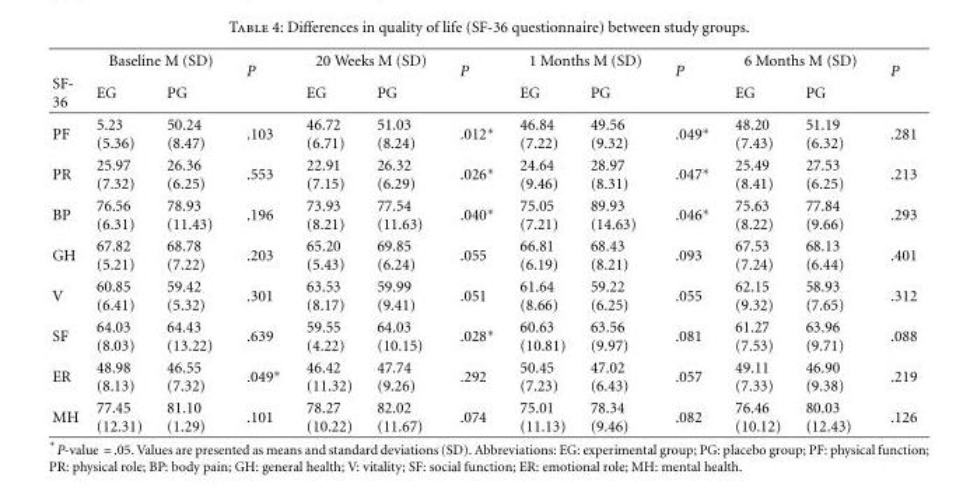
<table><thead><tr><td rowspan="2">SF- 36</td><td colspan="2">Baseline M (SD)</td><td rowspan="2">P</td><td colspan="2">20 Weeks M (SD)</td><td rowspan="2">P</td><td colspan="2">1 Months M (SD)</td><td rowspan="2">P</td><td colspan="2">6 Months M (SD)</td><td rowspan="2">P</td></tr><tr><td>EG</td><td>PG</td><td>EG</td><td>PG</td><td>EG</td><td>PG</td><td>EG</td><td>PG</td></tr></thead><tbody><tr><td>PF</td><td>5.23 (5.36)</td><td>50.24 (8.47)</td><td>.103</td><td>46.72 (6.71)</td><td>51.03 (8.24)</td><td>.012∗</td><td>46.84 (7.22)</td><td>49.56 (9.32)</td><td>.049∗</td><td>48.20 (7.43)</td><td>51.19 (6.32)</td><td>.281</td></tr><tr><td>PR</td><td>25.97 (7.32)</td><td>26.36 (6.25)</td><td>.553</td><td>22.91 (7.15)</td><td>26.32 (6.29)</td><td>.026∗</td><td>24.64 (9.46)</td><td>28.97 (8.31)</td><td>.047∗</td><td>25.49 (8.41)</td><td>27.53 (6.25)</td><td>.213</td></tr><tr><td>BP</td><td>76.56 (6.31)</td><td>78.93 (11.43)</td><td>.196</td><td>73.93 (8.21)</td><td>77.54 (11.63)</td><td>.040∗</td><td>75.05 (7.21)</td><td>89.93 (14.63)</td><td>.046∗</td><td>75.63 (8.22)</td><td>77.84 (9.66)</td><td>.293</td></tr><tr><td>GH</td><td>67.82 (5.21)</td><td>68.78 (7.22)</td><td>.203</td><td>65.20 (5.43)</td><td>69.85 (6.24)</td><td>.055</td><td>66.81 (6.19)</td><td>68.43 (8.21)</td><td>.093</td><td>67.53 (7.24)</td><td>68.13 (6.44)</td><td>.401</td></tr><tr><td>V</td><td>60.85 (6.41)</td><td>59.42 (5.32)</td><td>.301</td><td>63.53 (8.17)</td><td>59.99 (9.41)</td><td>.051</td><td>61.64 (8.66)</td><td>59.22 (6.25)</td><td>.055</td><td>62.15 (9.32)</td><td>58.93 (7.65)</td><td>.312</td></tr><tr><td>SF</td><td>64.03 (8.03)</td><td>64.43 (13.22)</td><td>.639</td><td>59.55 (4.22)</td><td>64.03 (10.15)</td><td>.028∗</td><td>60.63 (10.81)</td><td>63.56 (9.97)</td><td>.081</td><td>61.27 (7.53)</td><td>63.96 (9.71)</td><td>.088</td></tr><tr><td>ER</td><td>48.98 (8.13)</td><td>46.55 (7.32)</td><td>.049∗</td><td>46.42 (11.32)</td><td>47.74 (9.26)</td><td>.292</td><td>50.45 (7.23)</td><td>47.02 (6.43)</td><td>.057</td><td>49.11 (7.33)</td><td>46.90 (9.38)</td><td>.219</td></tr><tr><td>MH</td><td>77.45 (12.31)</td><td>81.10 (1.29)</td><td>.101</td><td>78.27 (10.22)</td><td>82.02 (11.67)</td><td>.074</td><td>75.01 (11.13)</td><td>78.34 (9.46)</td><td>.082</td><td>76.46 (10.12)</td><td>80.03 (12.43)</td><td>.126</td></tr></tbody></table>